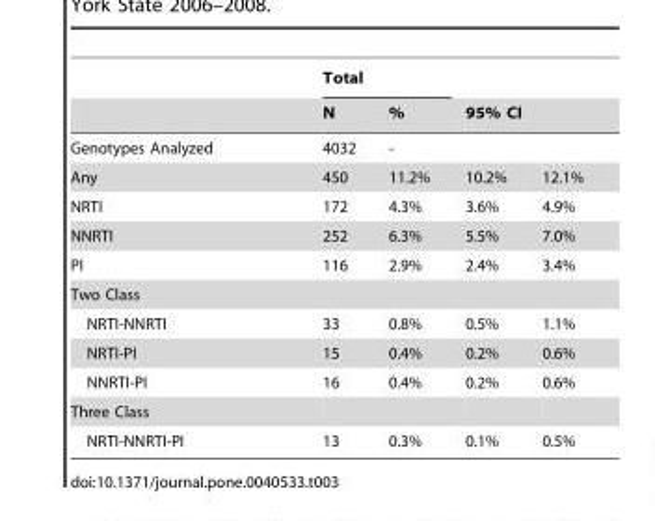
<table><thead><tr><td rowspan="2"></td><td colspan="2">Total</td><td></td><td></td></tr><tr><td>N</td><td>%</td><td colspan="2">95% CI</td></tr></thead><tbody><tr><td>Genotypes Analyzed</td><td>4032</td><td>-</td><td></td><td></td></tr><tr><td>Any</td><td>450</td><td>11.2%</td><td>10.2%</td><td>12.1%</td></tr><tr><td>NRTI</td><td>172</td><td>4.3%</td><td>3.6%</td><td>4.9%</td></tr><tr><td>NNRTI</td><td>252</td><td>6.3%</td><td>5.5%</td><td>7.0%</td></tr><tr><td>PI</td><td>116</td><td>2.9%</td><td>2.4%</td><td>3.4%</td></tr><tr><td colspan="5">Two Class</td></tr><tr><td>NRTI-NNRTI</td><td>33</td><td>0.8%</td><td>0.5%</td><td>1.1%</td></tr><tr><td>NRTI-PI</td><td>15</td><td>0.4%</td><td>0.2%</td><td>0.6%</td></tr><tr><td>NNRTI-PI</td><td>16</td><td>0.4%</td><td>0.2%</td><td>0.6%</td></tr><tr><td colspan="5">Three Class</td></tr><tr><td>NRTI-NNRTI-PI</td><td>13</td><td>0.3%</td><td>0.1%</td><td>0.5%</td></tr></tbody></table>